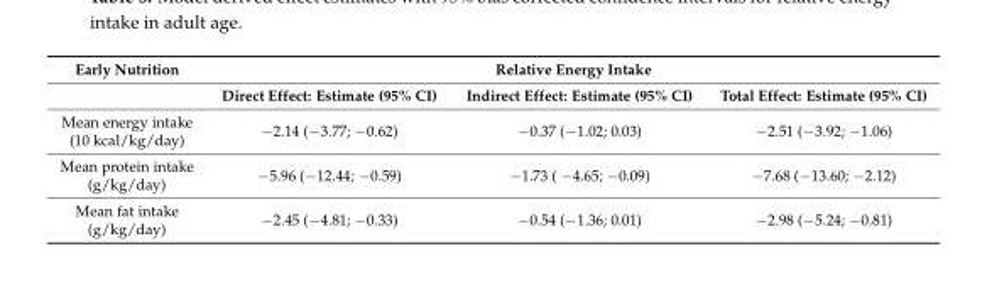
<table><thead><tr><td rowspan="2">Early Nutrition</td><td colspan="3">Relative Energy Intake</td></tr><tr><td>Direct Effect: Estimate (95% CI)</td><td>Indirect Effect: Estimate (95% CI)</td><td>Total Effect: Estimate (95% CI)</td></tr></thead><tbody><tr><td>Mean energy intake (10 kcal/kg/day)</td><td>−2.14 (−3.77; −0.62)</td><td>−0.37 (−1.02; 0.03)</td><td>−2.51 (−3.92; −1.06)</td></tr><tr><td>Mean protein intake (g/kg/day)</td><td>−5.96 (−12.44; −0.59)</td><td>−1.73 ( −4.65; −0.09)</td><td>−7.68 (−13.60; −2.12)</td></tr><tr><td>Mean fat intake (g/kg/day)</td><td>−2.45 (−4.81; −0.33)</td><td>−0.54 (−1.36; 0.01)</td><td>−2.98 (−5.24; −0.81)</td></tr></tbody></table>